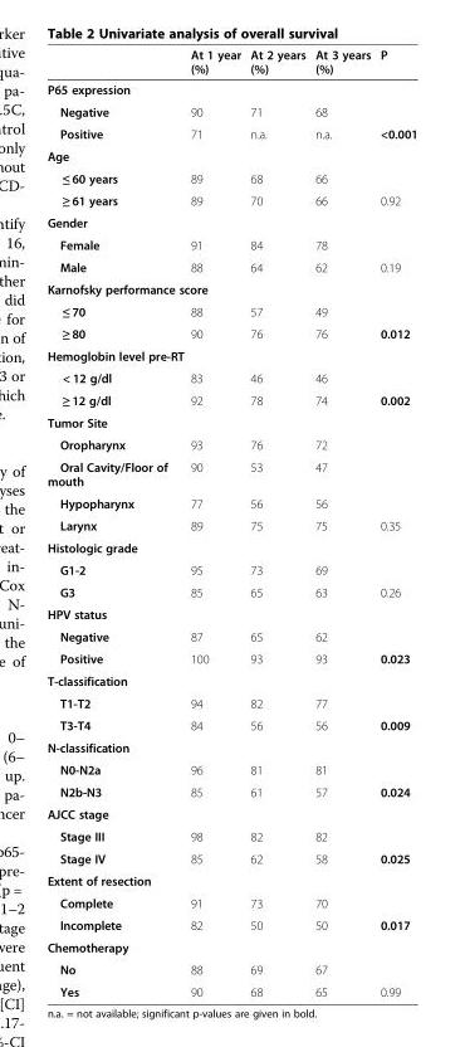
<table><thead><tr><td></td><td>At 1 year (%)</td><td>At 2 years (%)</td><td>At 3 years (%)</td><td>P</td></tr></thead><tbody><tr><td colspan="5">P65 expression</td></tr><tr><td>Negative</td><td>90</td><td>71</td><td>68</td><td></td></tr><tr><td>Positive</td><td>71</td><td>n.a.</td><td>n.a.</td><td>&lt;0.001</td></tr><tr><td colspan="5">Age</td></tr><tr><td>≤ 60 years</td><td>89</td><td>68</td><td>66</td><td></td></tr><tr><td>≥ 61 years</td><td>89</td><td>70</td><td>66</td><td>0.92</td></tr><tr><td colspan="5">Gender</td></tr><tr><td>Female</td><td>91</td><td>84</td><td>78</td><td></td></tr><tr><td>Male</td><td>88</td><td>64</td><td>62</td><td>0.19</td></tr><tr><td colspan="5">Karnofsky performance score</td></tr><tr><td>≤ 70</td><td>88</td><td>57</td><td>49</td><td></td></tr><tr><td>≥ 80</td><td>90</td><td>76</td><td>76</td><td>0.012</td></tr><tr><td colspan="5">Hemoglobin level pre-RT</td></tr><tr><td>&lt; 12 g/dl</td><td>83</td><td>46</td><td>46</td><td></td></tr><tr><td>≥ 12 g/dl</td><td>92</td><td>78</td><td>74</td><td>0.002</td></tr><tr><td colspan="5">Tumor Site</td></tr><tr><td>Oropharynx</td><td>93</td><td>76</td><td>72</td><td></td></tr><tr><td>Oral Cavity/Floor of mouth</td><td>90</td><td>53</td><td>47</td><td></td></tr><tr><td>Hypopharynx</td><td>77</td><td>56</td><td>56</td><td></td></tr><tr><td>Larynx</td><td>89</td><td>75</td><td>75</td><td>0.35</td></tr><tr><td colspan="5">Histologic grade</td></tr><tr><td>G1-2</td><td>95</td><td>73</td><td>69</td><td></td></tr><tr><td>G3</td><td>85</td><td>65</td><td>63</td><td>0.26</td></tr><tr><td colspan="5">HPV status</td></tr><tr><td>Negative</td><td>87</td><td>65</td><td>62</td><td></td></tr><tr><td>Positive</td><td>100</td><td>93</td><td>93</td><td>0.023</td></tr><tr><td colspan="5">T-classification</td></tr><tr><td>T1-T2</td><td>94</td><td>82</td><td>77</td><td></td></tr><tr><td>T3-T4</td><td>84</td><td>56</td><td>56</td><td>0.009</td></tr><tr><td colspan="5">N-classification</td></tr><tr><td>N0-N2a</td><td>96</td><td>81</td><td>81</td><td></td></tr><tr><td>N2b-N3</td><td>85</td><td>61</td><td>57</td><td>0.024</td></tr><tr><td colspan="5">AJCC stage</td></tr><tr><td>Stage III</td><td>98</td><td>82</td><td>82</td><td></td></tr><tr><td>Stage IV</td><td>85</td><td>62</td><td>58</td><td>0.025</td></tr><tr><td colspan="5">Extent of resection</td></tr><tr><td>Complete</td><td>91</td><td>73</td><td>70</td><td></td></tr><tr><td>Incomplete</td><td>82</td><td>50</td><td>50</td><td>0.017</td></tr><tr><td colspan="5">Chemotherapy</td></tr><tr><td>No</td><td>88</td><td>69</td><td>67</td><td></td></tr><tr><td>Yes</td><td>90</td><td>68</td><td>65</td><td>0.99</td></tr></tbody></table>